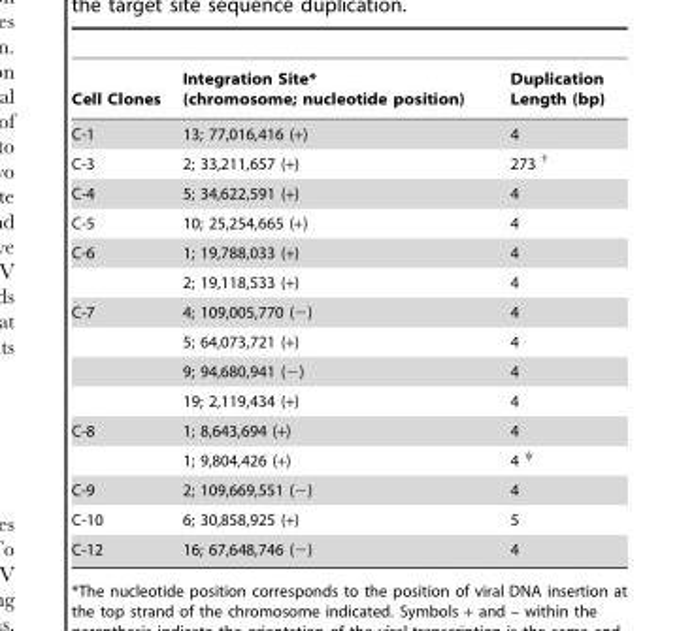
<table><thead><tr><td>Cell Clones</td><td>Integration Site* (chromosome; nucleotide position)</td><td>Duplication Length (bp)</td></tr></thead><tbody><tr><td>C-1</td><td>13; 77,016,416 (+)</td><td>4</td></tr><tr><td>C-3</td><td>2; 33,211,657 (+)</td><td>273 †</td></tr><tr><td>C-4</td><td>5; 34,622,591 (+)</td><td>4</td></tr><tr><td>C-5</td><td>10; 25,254,665 (+)</td><td>4</td></tr><tr><td rowspan="2">C-6</td><td>1; 19,788,033 (+)</td><td>4</td></tr><tr><td>2; 19,118,533 (+)</td><td>4</td></tr><tr><td rowspan="4">C-7</td><td>4; 109,005,770 (−)</td><td>4</td></tr><tr><td>5; 64,073,721 (+)</td><td>4</td></tr><tr><td>9; 94,680,941 (−)</td><td>4</td></tr><tr><td>19; 2,119,434 (+)</td><td>4</td></tr><tr><td rowspan="2">C-8</td><td>1; 8,643,694 (+)</td><td>4</td></tr><tr><td>1; 9,804,426 (+)</td><td>4 ψ</td></tr><tr><td>C-9</td><td>2; 109,669,551 (−)</td><td>4</td></tr><tr><td>C-10</td><td>6; 30,858,925 (+)</td><td>5</td></tr><tr><td>C-12</td><td>16; 67,648,746 (−)</td><td>4</td></tr></tbody></table>